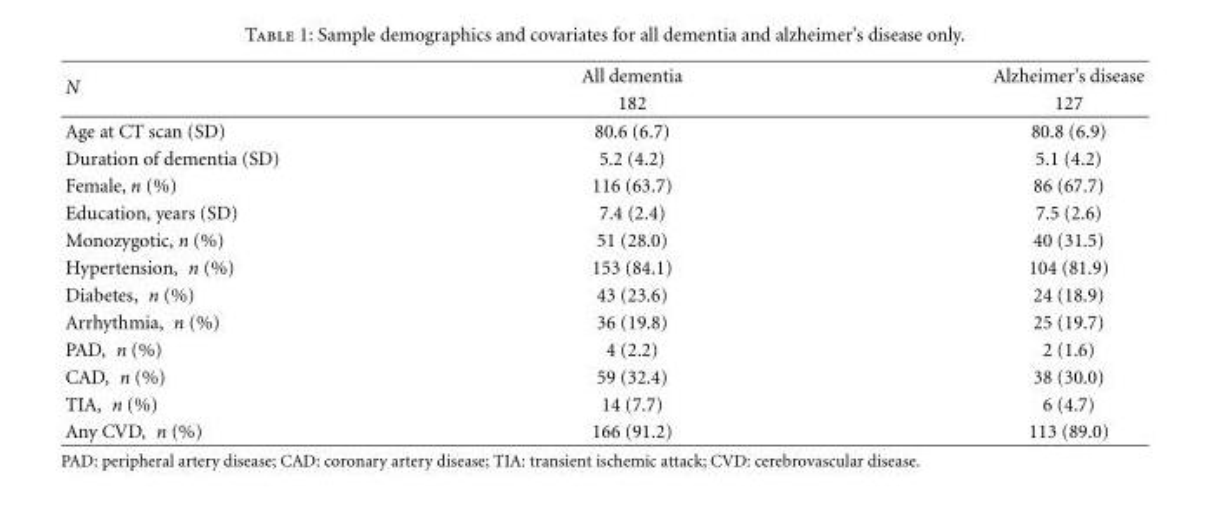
<table><thead><tr><td rowspan="2">N</td><td rowspan="2">All dementia 182</td><td rowspan="2">Alzheimer’s disease 127</td></tr><tr></tr></thead><tbody><tr><td>Age at CT scan (SD)</td><td>80.6 (6.7)</td><td>80.8 (6.9)</td></tr><tr><td>Duration of dementia (SD)</td><td>5.2 (4.2)</td><td>5.1 (4.2)</td></tr><tr><td>Female, n (%)</td><td>116 (63.7)</td><td>86 (67.7)</td></tr><tr><td>Education, years (SD)</td><td>7.4 (2.4)</td><td>7.5 (2.6)</td></tr><tr><td>Monozygotic, n (%)</td><td>51 (28.0)</td><td>40 (31.5)</td></tr><tr><td>Hypertension, n (%)</td><td>153 (84.1)</td><td>104 (81.9)</td></tr><tr><td>Diabetes, n (%)</td><td>43 (23.6)</td><td>24 (18.9)</td></tr><tr><td>Arrhythmia, n (%)</td><td>36 (19.8)</td><td>25 (19.7)</td></tr><tr><td>PAD, n (%)</td><td>4 (2.2)</td><td>2 (1.6)</td></tr><tr><td>CAD, n (%)</td><td>59 (32.4)</td><td>38 (30.0)</td></tr><tr><td>TIA, n (%)</td><td>14 (7.7)</td><td>6 (4.7)</td></tr><tr><td>Any CVD, n (%)</td><td>166 (91.2)</td><td>113 (89.0)</td></tr></tbody></table>